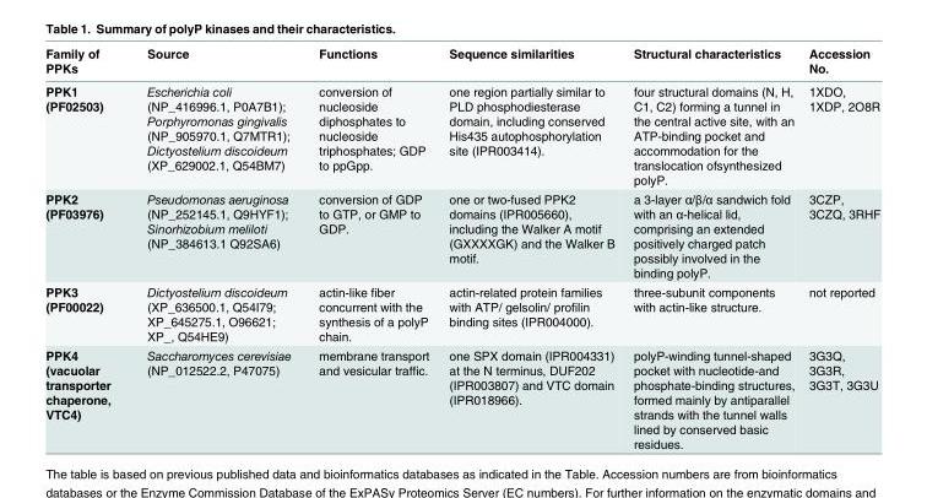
<table><thead><tr><td>Family of PPKs</td><td>Source</td><td>Functions</td><td>Sequence similarities</td><td>Structural characteristics</td><td>Accession No.</td></tr></thead><tbody><tr><td>PPK1 (PF02503)</td><td>Escherichia coli (NP_416996.1, P0A7B1); Porphyromonas gingivalis (NP_905970.1, Q7MTR1); Dictyostelium discoideum (XP_629002.1, Q54BM7)</td><td>conversion of nucleoside diphosphates to nucleoside triphosphates; GDP to ppGpp.</td><td>one region partially similar to PLD phosphodiesterase domain, including conserved His435 autophosphorylation site (IPR003414).</td><td>four structural domains (N, H, C1, C2) forming a tunnel in the central active site, with an ATP-binding pocket and accommodation for the translocation ofsynthesized polyP.</td><td>1XDO, 1XDP, 2O8R</td></tr><tr><td>PPK2 (PF03976)</td><td>Pseudomonas aeruginosa (NP_252145.1, Q9HYF1); Sinorhizobium meliloti (NP_384613.1 Q92SA6)</td><td>conversion of GDP to GTP, or GMP to GDP.</td><td>one or two-fused PPK2 domains (IPR005660), including the Walker A motif (GXXXXGK) and the Walker B motif.</td><td>a 3-layer α/β/α sandwich fold with an α-helical lid, comprising an extended positively charged patch possibly involved in the binding polyP.</td><td>3CZP, 3CZQ, 3RHF</td></tr><tr><td>PPK3 (PF00022)</td><td>Dictyostelium discoideum (XP_636500.1, Q54I79; XP_645275.1, O96621; XP_, Q54HE9)</td><td>actin-like fiber concurrent with the synthesis of a polyP chain.</td><td>actin-related protein families with ATP/ gelsolin/ profilin binding sites (IPR004000).</td><td>three-subunit components with actin-like structure.</td><td>not reported</td></tr><tr><td>PPK4 (vacuolar transporter chaperone, VTC4)</td><td>Saccharomyces cerevisiae (NP_012522.2, P47075)</td><td>membrane transport and vesicular traffic.</td><td>one SPX domain (IPR004331) at the N terminus, DUF202 (IPR003807) and VTC domain (IPR018966).</td><td>polyP-winding tunnel-shaped pocket with nucleotide-and phosphate-binding structures, formed mainly by antiparallel strands with the tunnel walls lined by conserved basic residues.</td><td>3G3Q, 3G3R, 3G3T, 3G3U</td></tr></tbody></table>